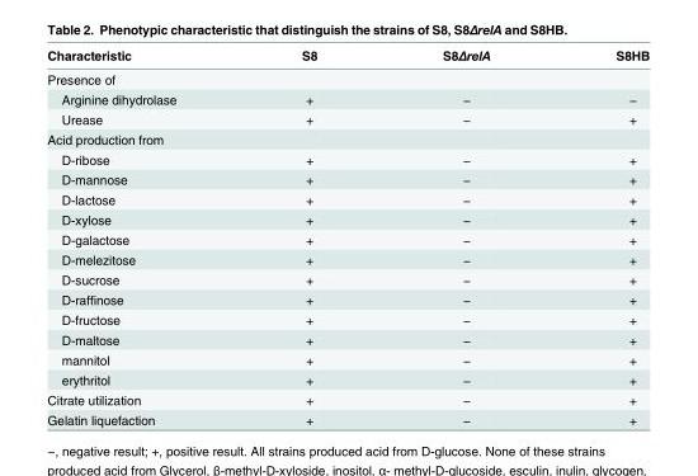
<table><thead><tr><td>Characteristic</td><td>S8</td><td>S8ΔrelA</td><td>S8HB</td></tr></thead><tbody><tr><td colspan="4">Presence of</td></tr><tr><td>Arginine dihydrolase</td><td>+</td><td>−</td><td>−</td></tr><tr><td>Urease</td><td>+</td><td>−</td><td>+</td></tr><tr><td colspan="4">Acid production from</td></tr><tr><td>D-ribose</td><td>+</td><td>−</td><td>+</td></tr><tr><td>D-mannose</td><td>+</td><td>−</td><td>+</td></tr><tr><td>D-lactose</td><td>+</td><td>−</td><td>+</td></tr><tr><td>D-xylose</td><td>+</td><td>−</td><td>+</td></tr><tr><td>D-galactose</td><td>+</td><td>−</td><td>+</td></tr><tr><td>D-melezitose</td><td>+</td><td>−</td><td>+</td></tr><tr><td>D-sucrose</td><td>+</td><td>−</td><td>+</td></tr><tr><td>D-raffinose</td><td>+</td><td>−</td><td>+</td></tr><tr><td>D-fructose</td><td>+</td><td>−</td><td>+</td></tr><tr><td>D-maltose</td><td>+</td><td>−</td><td>+</td></tr><tr><td>mannitol</td><td>+</td><td>−</td><td>+</td></tr><tr><td>erythritol</td><td>+</td><td>−</td><td>+</td></tr><tr><td>Citrate utilization</td><td>+</td><td>−</td><td>+</td></tr><tr><td>Gelatin liquefaction</td><td>+</td><td>−</td><td>+</td></tr></tbody></table>